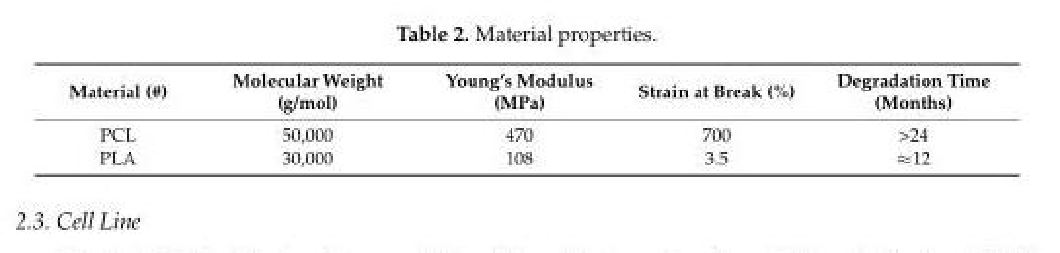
<table><thead><tr><td>Material (#)</td><td>Molecular Weight (g/mol)</td><td>Young’s Modulus (MPa)</td><td>Strain at Break (%)</td><td>Degradation Time (Months)</td></tr></thead><tbody><tr><td>PCL</td><td>50,000</td><td>470</td><td>700</td><td>&gt;24</td></tr><tr><td>PLA</td><td>30,000</td><td>108</td><td>3.5</td><td>≈12</td></tr></tbody></table>